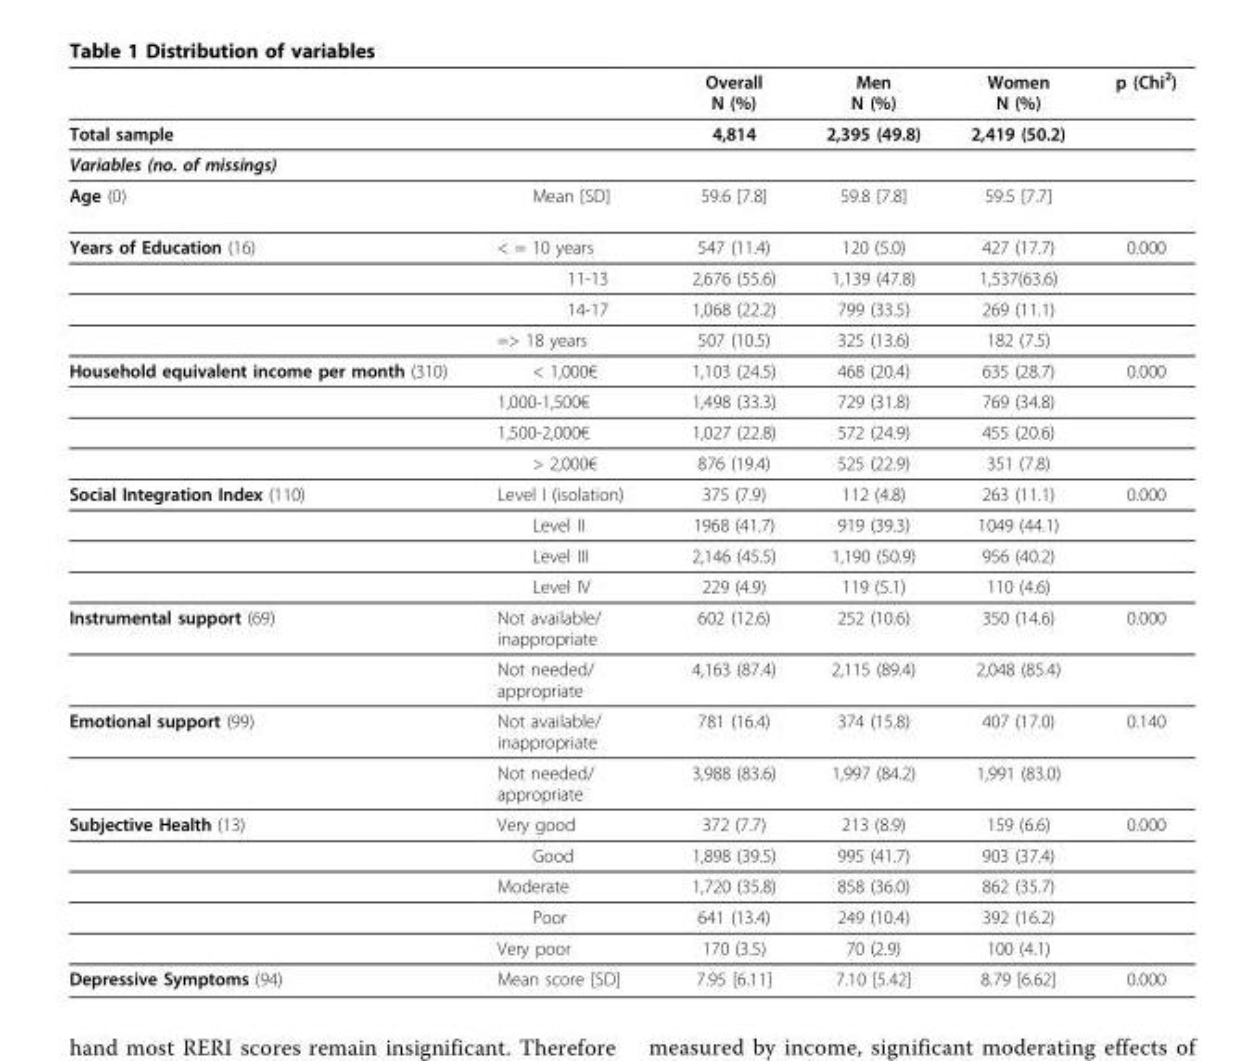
<table><thead><tr><td></td><td></td><td>Overall N (%)</td><td>Men N (%)</td><td>Women N (%)</td><td>p (Chi<sup>2</sup>)</td></tr></thead><tbody><tr><td colspan="2">Total sample</td><td>4,814</td><td>2,395 (49.8)</td><td>2,419 (50.2)</td><td></td></tr><tr><td colspan="6">Variables (no. of missings)</td></tr><tr><td>Age (0)</td><td>Mean [SD]</td><td>59.6 [7.8]</td><td>59.8 [7.8]</td><td>59.5 [7.7]</td><td></td></tr><tr><td rowspan="4">Years of Education (16)</td><td>&lt; = 10 years</td><td>547 (11.4)</td><td>120 (5.0)</td><td>427 (17.7)</td><td>0.000</td></tr><tr><td>11-13</td><td>2,676 (55.6)</td><td>1,139 (47.8)</td><td>1,537(63.6)</td><td></td></tr><tr><td>14-17</td><td>1,068 (22.2)</td><td>799 (33.5)</td><td>269 (11.1)</td><td></td></tr><tr><td>=&gt; 18 years</td><td>507 (10.5)</td><td>325 (13.6)</td><td>182 (7.5)</td><td></td></tr><tr><td rowspan="4">Household equivalent income per month (310)</td><td>&lt; 1,000€</td><td>1,103 (24.5)</td><td>468 (20.4)</td><td>635 (28.7)</td><td>0.000</td></tr><tr><td>1,000-1,500€</td><td>1,498 (33.3)</td><td>729 (31.8)</td><td>769 (34.8)</td><td></td></tr><tr><td>1,500-2,000€</td><td>1,027 (22.8)</td><td>572 (24.9)</td><td>455 (20.6)</td><td></td></tr><tr><td>&gt; 2,000€</td><td>876 (19.4)</td><td>525 (22.9)</td><td>351 (7.8)</td><td></td></tr><tr><td rowspan="4">Social Integration Index (110)</td><td>Level I (isolation)</td><td>375 (7.9)</td><td>112 (4.8)</td><td>263 (11.1)</td><td>0.000</td></tr><tr><td>Level II</td><td>1968 (41.7)</td><td>919 (39.3)</td><td>1049 (44.1)</td><td></td></tr><tr><td>Level III</td><td>2,146 (45.5)</td><td>1,190 (50.9)</td><td>956 (40.2)</td><td></td></tr><tr><td>Level IV</td><td>229 (4.9)</td><td>119 (5.1)</td><td>110 (4.6)</td><td></td></tr><tr><td rowspan="2">Instrumental support (69)</td><td>Not available/ inappropriate</td><td>602 (12.6)</td><td>252 (10.6)</td><td>350 (14.6)</td><td>0.000</td></tr><tr><td>Not needed/ appropriate</td><td>4,163 (87.4)</td><td>2,115 (89.4)</td><td>2,048 (85.4)</td><td></td></tr><tr><td rowspan="2">Emotional support (99)</td><td>Not available/ inappropriate</td><td>781 (16.4)</td><td>374 (15.8)</td><td>407 (17.0)</td><td>0.140</td></tr><tr><td>Not needed/ appropriate</td><td>3,988 (83.6)</td><td>1,997 (84.2)</td><td>1,991 (83.0)</td><td></td></tr><tr><td rowspan="5">Subjective Health (13)</td><td>Very good</td><td>372 (7.7)</td><td>213 (8.9)</td><td>159 (6.6)</td><td>0.000</td></tr><tr><td>Good</td><td>1,898 (39.5)</td><td>995 (41.7)</td><td>903 (37.4)</td><td></td></tr><tr><td>Moderate</td><td>1,720 (35.8)</td><td>858 (36.0)</td><td>862 (35.7)</td><td></td></tr><tr><td>Poor</td><td>641 (13.4)</td><td>249 (10.4)</td><td>392 (16.2)</td><td></td></tr><tr><td>Very poor</td><td>170 (3.5)</td><td>70 (2.9)</td><td>100 (4.1)</td><td></td></tr><tr><td>Depressive Symptoms (94)</td><td>Mean score [SD]</td><td>7.95 [6.11]</td><td>7.10 [5.42]</td><td>8.79 [6.62]</td><td>0.000</td></tr></tbody></table>